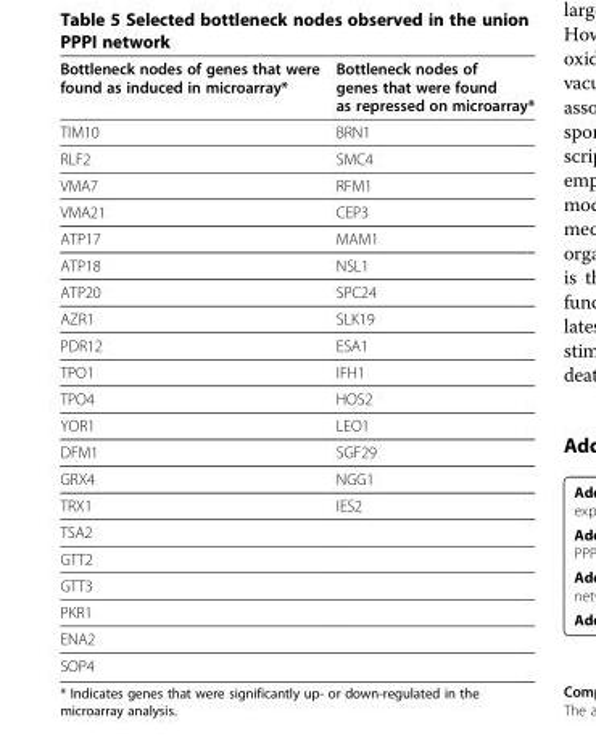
<table><thead><tr><td>Bottleneck nodes of genes that were found as induced in microarray*</td><td>Bottleneck nodes of genes that were found as repressed on microarray*</td></tr></thead><tbody><tr><td>TIM10</td><td>BRN1</td></tr><tr><td>RLF2</td><td>SMC4</td></tr><tr><td>VMA7</td><td>RFM1</td></tr><tr><td>VMA21</td><td>CEP3</td></tr><tr><td>ATP17</td><td>MAM1</td></tr><tr><td>ATP18</td><td>NSL1</td></tr><tr><td>ATP20</td><td>SPC24</td></tr><tr><td>AZR1</td><td>SLK19</td></tr><tr><td>PDR12</td><td>ESA1</td></tr><tr><td>TPO1</td><td>IFH1</td></tr><tr><td>TPO4</td><td>HOS2</td></tr><tr><td>YOR1</td><td>LEO1</td></tr><tr><td>DFM1</td><td>SGF29</td></tr><tr><td>GRX4</td><td>NGG1</td></tr><tr><td>TRX1</td><td>IES2</td></tr><tr><td colspan="2">TSA2</td></tr><tr><td colspan="2">GTT2</td></tr><tr><td colspan="2">GTT3</td></tr><tr><td colspan="2">PKR1</td></tr><tr><td colspan="2">ENA2</td></tr><tr><td>SOP4</td><td></td></tr></tbody></table>